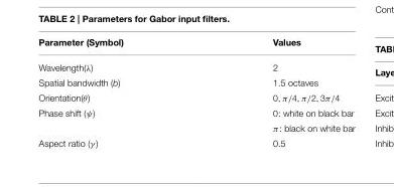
<table><thead><tr><td>Parameter (Symbol)</td><td>Values</td></tr></thead><tbody><tr><td>Wavelength(λ)</td><td>2</td></tr><tr><td>Spatial bandwidth (b)</td><td>1.5 octaves</td></tr><tr><td>Orientation(θ)</td><td>0, π/4, π/2, 3π/4</td></tr><tr><td rowspan="2">Phase shift (ψ)</td><td>0: white on black bar</td></tr><tr><td>π: black on white bar</td></tr><tr><td>Aspect ratio (γ )</td><td>0.5</td></tr></tbody></table>